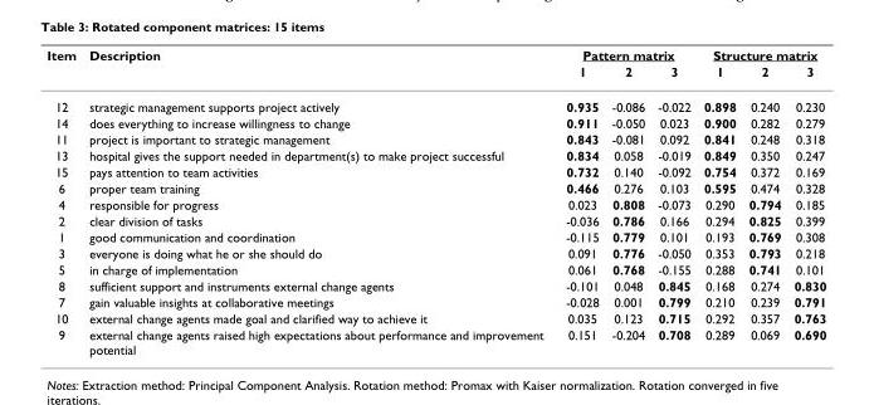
<table><thead><tr><td rowspan="2">Item</td><td rowspan="2">Description</td><td colspan="3">Pattern matrix</td><td colspan="3">Structure matrix</td></tr><tr><td>1</td><td>2</td><td>3</td><td>1</td><td>2</td><td>3</td></tr></thead><tbody><tr><td>12</td><td>strategic management supports project actively</td><td>0.935</td><td>-0.086</td><td>-0.022</td><td>0.898</td><td>0.240</td><td>0.230</td></tr><tr><td>14</td><td>does everything to increase willingness to change</td><td>0.911</td><td>-0.050</td><td>0.023</td><td>0.900</td><td>0.282</td><td>0.279</td></tr><tr><td>11</td><td>project is important to strategic management</td><td>0.843</td><td>-0.081</td><td>0.092</td><td>0.841</td><td>0.248</td><td>0.318</td></tr><tr><td>13</td><td>hospital gives the support needed in department(s) to make project successful</td><td>0.834</td><td>0.058</td><td>-0.019</td><td>0.849</td><td>0.350</td><td>0.247</td></tr><tr><td>15</td><td>pays attention to team activities</td><td>0.732</td><td>0.140</td><td>-0.092</td><td>0.754</td><td>0.372</td><td>0.169</td></tr><tr><td>6</td><td>proper team training</td><td>0.466</td><td>0.276</td><td>0.103</td><td>0.595</td><td>0.474</td><td>0.328</td></tr><tr><td>4</td><td>responsible for progress</td><td>0.023</td><td>0.808</td><td>-0.073</td><td>0.290</td><td>0.794</td><td>0.185</td></tr><tr><td>2</td><td>clear division of tasks</td><td>-0.036</td><td>0.786</td><td>0.166</td><td>0.294</td><td>0.825</td><td>0.399</td></tr><tr><td>1</td><td>good communication and coordination</td><td>-0.115</td><td>0.779</td><td>0.101</td><td>0.193</td><td>0.769</td><td>0.308</td></tr><tr><td>3</td><td>everyone is doing what he or she should do</td><td>0.091</td><td>0.776</td><td>-0.050</td><td>0.353</td><td>0.793</td><td>0.218</td></tr><tr><td>5</td><td>in charge of implementation</td><td>0.061</td><td>0.768</td><td>-0.155</td><td>0.288</td><td>0.741</td><td>0.101</td></tr><tr><td>8</td><td>sufficient support and instruments external change agents</td><td>-0.101</td><td>0.048</td><td>0.845</td><td>0.168</td><td>0.274</td><td>0.830</td></tr><tr><td>7</td><td>gain valuable insights at collaborative meetings</td><td>-0.028</td><td>0.001</td><td>0.799</td><td>0.210</td><td>0.239</td><td>0.791</td></tr><tr><td>10</td><td>external change agents made goal and clarified way to achieve it</td><td>0.035</td><td>0.123</td><td>0.715</td><td>0.292</td><td>0.357</td><td>0.763</td></tr><tr><td>9</td><td>external change agents raised high expectations about performance and improvement potential</td><td>0.151</td><td>-0.204</td><td>0.708</td><td>0.289</td><td>0.069</td><td>0.690</td></tr></tbody></table>